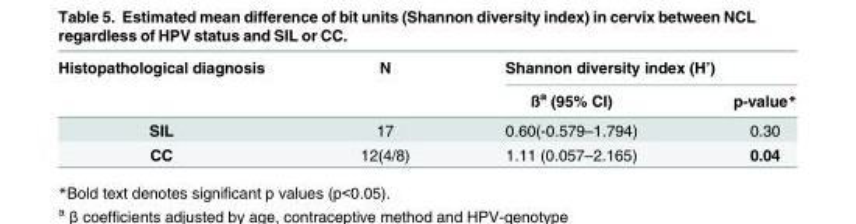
<table><thead><tr><td rowspan="2">Histopathological diagnosis</td><td rowspan="2">N</td><td colspan="2">Shannon diversity index (H’)</td></tr><tr><td>ß<sup>a</sup> (95% CI)</td><td>p-value*</td></tr></thead><tbody><tr><td>SIL</td><td>17</td><td>0.60(-0.579–1.794)</td><td>0.30</td></tr><tr><td>CC</td><td>12(4/8)</td><td>1.11 (0.057–2.165)</td><td>0.04</td></tr></tbody></table>